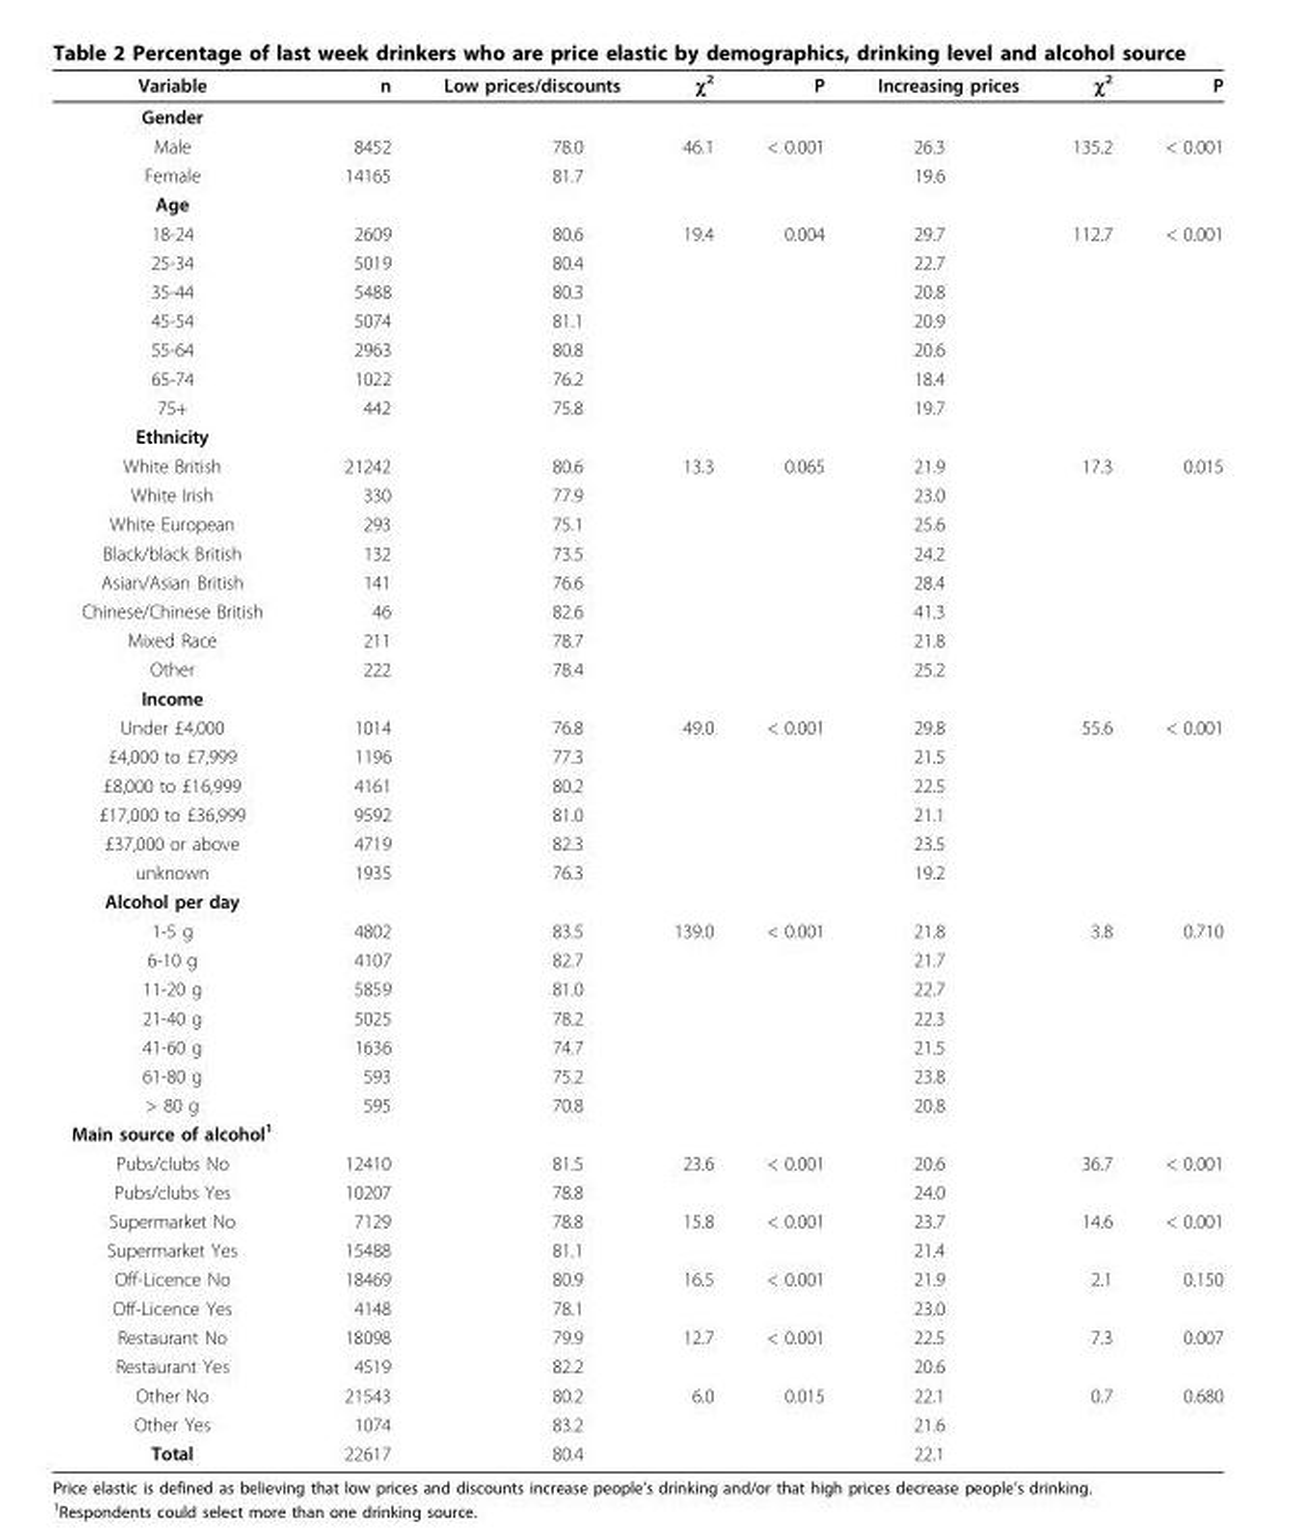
<table><thead><tr><td>Variable</td><td>n</td><td>Low prices/discounts</td><td>χ<sup>2</sup></td><td>P</td><td>Increasing prices</td><td>χ<sup>2</sup></td><td>P</td></tr></thead><tbody><tr><td colspan="8">Gender</td></tr><tr><td>Male</td><td>8452</td><td>78.0</td><td>46.1</td><td>&lt; 0.001</td><td>26.3</td><td>135.2</td><td>&lt; 0.001</td></tr><tr><td>Female</td><td>14165</td><td>81.7</td><td></td><td></td><td>19.6</td><td></td><td></td></tr><tr><td colspan="8">Age</td></tr><tr><td>18-24</td><td>2609</td><td>80.6</td><td>19.4</td><td>0.004</td><td>29.7</td><td>112.7</td><td>&lt; 0.001</td></tr><tr><td>25-34</td><td>5019</td><td>80.4</td><td></td><td></td><td>22.7</td><td></td><td></td></tr><tr><td>35-44</td><td>5488</td><td>80.3</td><td></td><td></td><td>20.8</td><td></td><td></td></tr><tr><td>45-54</td><td>5074</td><td>81.1</td><td></td><td></td><td>20.9</td><td></td><td></td></tr><tr><td>55-64</td><td>2963</td><td>80.8</td><td></td><td></td><td>20.6</td><td></td><td></td></tr><tr><td>65-74</td><td>1022</td><td>76.2</td><td></td><td></td><td>18.4</td><td></td><td></td></tr><tr><td>75+</td><td>442</td><td>75.8</td><td></td><td></td><td>19.7</td><td></td><td></td></tr><tr><td colspan="8">Ethnicity</td></tr><tr><td>White British</td><td>21242</td><td>80.6</td><td>13.3</td><td>0.065</td><td>21.9</td><td>17.3</td><td>0.015</td></tr><tr><td>White Irish</td><td>330</td><td>77.9</td><td></td><td></td><td>23.0</td><td></td><td></td></tr><tr><td>White European</td><td>293</td><td>75.1</td><td></td><td></td><td>25.6</td><td></td><td></td></tr><tr><td>Black/black British</td><td>132</td><td>73.5</td><td></td><td></td><td>24.2</td><td></td><td></td></tr><tr><td>Asian/Asian British</td><td>141</td><td>76.6</td><td></td><td></td><td>28.4</td><td></td><td></td></tr><tr><td>Chinese/Chinese British</td><td>46</td><td>82.6</td><td></td><td></td><td>41.3</td><td></td><td></td></tr><tr><td>Mixed Race</td><td>211</td><td>78.7</td><td></td><td></td><td>21.8</td><td></td><td></td></tr><tr><td>Other</td><td>222</td><td>78.4</td><td></td><td></td><td>25.2</td><td></td><td></td></tr><tr><td colspan="8">Income</td></tr><tr><td>Under £4,000</td><td>1014</td><td>76.8</td><td>49.0</td><td>&lt; 0.001</td><td>29.8</td><td>55.6</td><td>&lt; 0.001</td></tr><tr><td>£4,000 to £7,999</td><td>1196</td><td>77.3</td><td></td><td></td><td>21.5</td><td></td><td></td></tr><tr><td>£8,000 to £16,999</td><td>4161</td><td>80.2</td><td></td><td></td><td>22.5</td><td></td><td></td></tr><tr><td>£17,000 to £36,999</td><td>9592</td><td>81.0</td><td></td><td></td><td>21.1</td><td></td><td></td></tr><tr><td>£37,000 or above</td><td>4719</td><td>82.3</td><td></td><td></td><td>23.5</td><td></td><td></td></tr><tr><td>unknown</td><td>1935</td><td>76.3</td><td></td><td></td><td>19.2</td><td></td><td></td></tr><tr><td colspan="8">Alcohol per day</td></tr><tr><td>1-5 g</td><td>4802</td><td>83.5</td><td>139.0</td><td>&lt; 0.001</td><td>21.8</td><td>3.8</td><td>0.710</td></tr><tr><td>6-10 g</td><td>4107</td><td>82.7</td><td></td><td></td><td>21.7</td><td></td><td></td></tr><tr><td>11-20 g</td><td>5859</td><td>81.0</td><td></td><td></td><td>22.7</td><td></td><td></td></tr><tr><td>21-40 g</td><td>5025</td><td>78.2</td><td></td><td></td><td>22.3</td><td></td><td></td></tr><tr><td>41-60 g</td><td>1636</td><td>74.7</td><td></td><td></td><td>21.5</td><td></td><td></td></tr><tr><td>61-80 g</td><td>593</td><td>75.2</td><td></td><td></td><td>23.8</td><td></td><td></td></tr><tr><td>&gt; 80 g</td><td>595</td><td>70.8</td><td></td><td></td><td>20.8</td><td></td><td></td></tr><tr><td colspan="8">Main source of alcohol<sup>1</sup></td></tr><tr><td>Pubs/clubs No</td><td>12410</td><td>81.5</td><td>23.6</td><td>&lt; 0.001</td><td>20.6</td><td>36.7</td><td>&lt; 0.001</td></tr><tr><td>Pubs/clubs Yes</td><td>10207</td><td>78.8</td><td></td><td></td><td>24.0</td><td></td><td></td></tr><tr><td>Supermarket No</td><td>7129</td><td>78.8</td><td>15.8</td><td>&lt; 0.001</td><td>23.7</td><td>14.6</td><td>&lt; 0.001</td></tr><tr><td>Supermarket Yes</td><td>15488</td><td>81.1</td><td></td><td></td><td>21.4</td><td></td><td></td></tr><tr><td>Off-Licence No</td><td>18469</td><td>80.9</td><td>16.5</td><td>&lt; 0.001</td><td>21.9</td><td>2.1</td><td>0.150</td></tr><tr><td>Off-Licence Yes</td><td>4148</td><td>78.1</td><td></td><td></td><td>23.0</td><td></td><td></td></tr><tr><td>Restaurant No</td><td>18098</td><td>79.9</td><td>12.7</td><td>&lt; 0.001</td><td>22.5</td><td>7.3</td><td>0.007</td></tr><tr><td>Restaurant Yes</td><td>4519</td><td>82.2</td><td></td><td></td><td>20.6</td><td></td><td></td></tr><tr><td>Other No</td><td>21543</td><td>80.2</td><td>6.0</td><td>0.015</td><td>22.1</td><td>0.7</td><td>0.680</td></tr><tr><td>Other Yes</td><td>1074</td><td>83.2</td><td></td><td></td><td>21.6</td><td></td><td></td></tr><tr><td>Total</td><td>22617</td><td>80.4</td><td></td><td></td><td>22.1</td><td></td><td></td></tr></tbody></table>